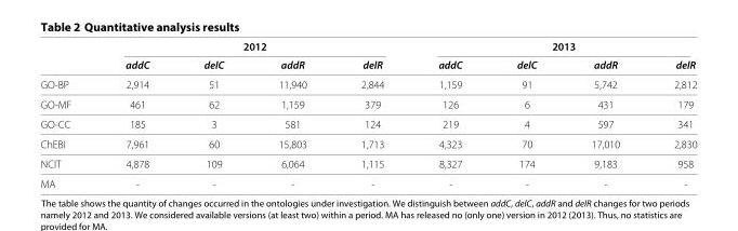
<table><thead><tr><td rowspan="2"></td><td colspan="4">2012</td><td colspan="4">2013</td></tr><tr><td>addC</td><td>delC</td><td>addR</td><td>delR</td><td>addC</td><td>delC</td><td>addR</td><td>delR</td></tr></thead><tbody><tr><td>GO-BP</td><td>2,914</td><td>51</td><td>11,940</td><td>2,844</td><td>1,159</td><td>91</td><td>5,742</td><td>2,812</td></tr><tr><td>GO-MF</td><td>461</td><td>62</td><td>1,159</td><td>379</td><td>126</td><td>6</td><td>431</td><td>179</td></tr><tr><td>GO-CC</td><td>185</td><td>3</td><td>581</td><td>124</td><td>219</td><td>4</td><td>597</td><td>341</td></tr><tr><td>ChEBI</td><td>7,961</td><td>60</td><td>15,803</td><td>1,713</td><td>4,323</td><td>70</td><td>17,010</td><td>2,830</td></tr><tr><td>NCIT</td><td>4,878</td><td>109</td><td>6,064</td><td>1,115</td><td>8,327</td><td>174</td><td>9,183</td><td>958</td></tr><tr><td>MA</td><td>-</td><td>-</td><td>-</td><td>-</td><td>-</td><td>-</td><td>-</td><td>-</td></tr></tbody></table>